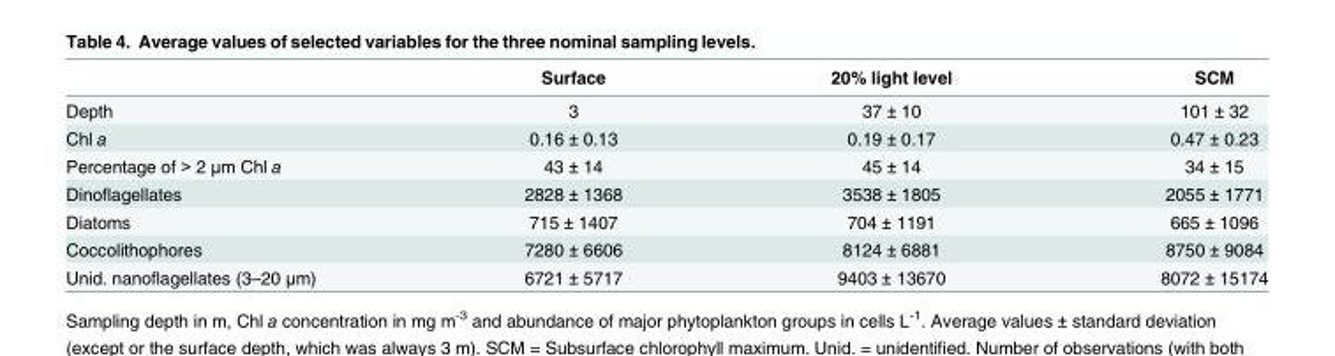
<table><thead><tr><td></td><td>Surface</td><td>20% light level</td><td>SCM</td></tr></thead><tbody><tr><td>Depth</td><td>3</td><td>37 ± 10</td><td>101 ± 32</td></tr><tr><td>Chl a</td><td>0.16 ± 0.13</td><td>0.19 ± 0.17</td><td>0.47 ± 0.23</td></tr><tr><td>Percentage of &gt; 2 μm Chl a</td><td>43 ± 14</td><td>45 ± 14</td><td>34 ± 15</td></tr><tr><td>Dinoflagellates</td><td>2828 ± 1368</td><td>3538 ± 1805</td><td>2055 ± 1771</td></tr><tr><td>Diatoms</td><td>715 ± 1407</td><td>704 ± 1191</td><td>665 ± 1096</td></tr><tr><td>Coccolithophores</td><td>7280 ± 6606</td><td>8124 ± 6881</td><td>8750 ± 9084</td></tr><tr><td>Unid. nanoflagellates (3–20 μm)</td><td>6721 ± 5717</td><td>9403 ± 13670</td><td>8072 ± 15174</td></tr></tbody></table>